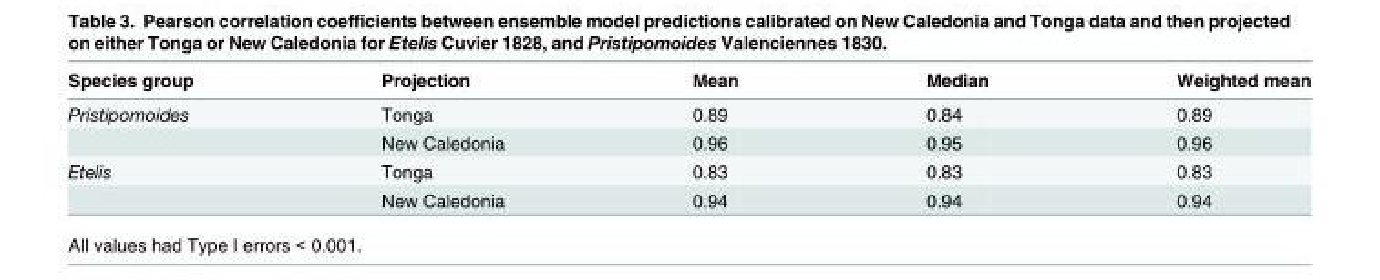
<table><thead><tr><td>Species group</td><td>Projection</td><td>Mean</td><td>Median</td><td>Weighted mean</td></tr></thead><tbody><tr><td rowspan="2">Pristipomoides</td><td>Tonga</td><td>0.89</td><td>0.84</td><td>0.89</td></tr><tr><td>New Caledonia</td><td>0.96</td><td>0.95</td><td>0.96</td></tr><tr><td rowspan="2">Etelis</td><td>Tonga</td><td>0.83</td><td>0.83</td><td>0.83</td></tr><tr><td>New Caledonia</td><td>0.94</td><td>0.94</td><td>0.94</td></tr></tbody></table>